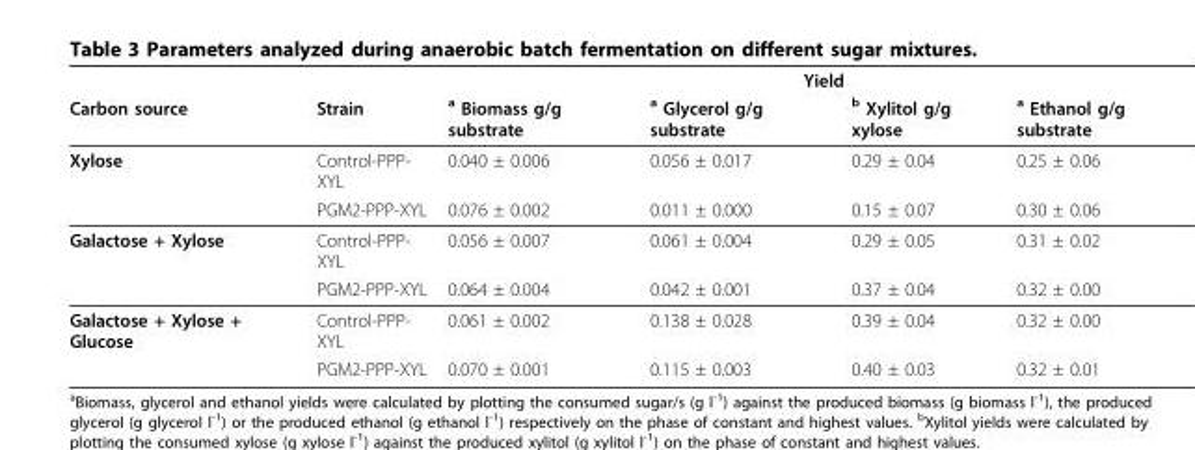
<table><thead><tr><td rowspan="2">Carbon source</td><td rowspan="2">Strain</td><td colspan="4">Yield</td></tr><tr><td><sup>a</sup> Biomass g/g substrate</td><td><sup>a</sup> Glycerol g/g substrate</td><td><sup>b</sup> Xylitol g/g xylose</td><td><sup>a</sup> Ethanol g/g substrate</td></tr></thead><tbody><tr><td rowspan="2">Xylose</td><td>Control-PPP- XYL</td><td>0.040 ± 0.006</td><td>0.056 ± 0.017</td><td>0.29 ± 0.04</td><td>0.25 ± 0.06</td></tr><tr><td>PGM2-PPP-XYL</td><td>0.076 ± 0.002</td><td>0.011 ± 0.000</td><td>0.15 ± 0.07</td><td>0.30 ± 0.06</td></tr><tr><td rowspan="2">Galactose + Xylose</td><td>Control-PPP- XYL</td><td>0.056 ± 0.007</td><td>0.061 ± 0.004</td><td>0.29 ± 0.05</td><td>0.31 ± 0.02</td></tr><tr><td>PGM2-PPP-XYL</td><td>0.064 ± 0.004</td><td>0.042 ± 0.001</td><td>0.37 ± 0.04</td><td>0.32 ± 0.00</td></tr><tr><td rowspan="2">Galactose + Xylose + Glucose</td><td>Control-PPP- XYL</td><td>0.061 ± 0.002</td><td>0.138 ± 0.028</td><td>0.39 ± 0.04</td><td>0.32 ± 0.00</td></tr><tr><td>PGM2-PPP-XYL</td><td>0.070 ± 0.001</td><td>0.115 ± 0.003</td><td>0.40 ± 0.03</td><td>0.32 ± 0.01</td></tr></tbody></table>